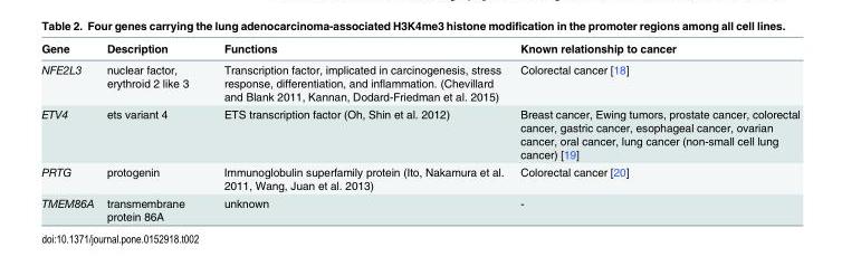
<table><thead><tr><td>Gene</td><td>Description</td><td>Functions</td><td>Known relationship to cancer</td></tr></thead><tbody><tr><td>NFE2L3</td><td>nuclear factor, erythroid 2 like 3</td><td>Transcription factor, implicated in carcinogenesis, stress response, differentiation, and inflammation. (Chevillard and Blank 2011, Kannan, Dodard-Friedman et al. 2015)</td><td>Colorectal cancer [18]</td></tr><tr><td>ETV4</td><td>ets variant 4</td><td>ETS transcription factor (Oh, Shin et al. 2012)</td><td>Breast cancer, Ewing tumors, prostate cancer, colorectal cancer, gastric cancer, esophageal cancer, ovarian cancer, oral cancer, lung cancer (non-small cell lung cancer) [19]</td></tr><tr><td>PRTG</td><td>protogenin</td><td>Immunoglobulin superfamily protein (Ito, Nakamura et al. 2011, Wang, Juan et al. 2013)</td><td>Colorectal cancer [20]</td></tr><tr><td>TMEM86A</td><td>transmembrane protein 86A</td><td>unknown</td><td>-</td></tr></tbody></table>